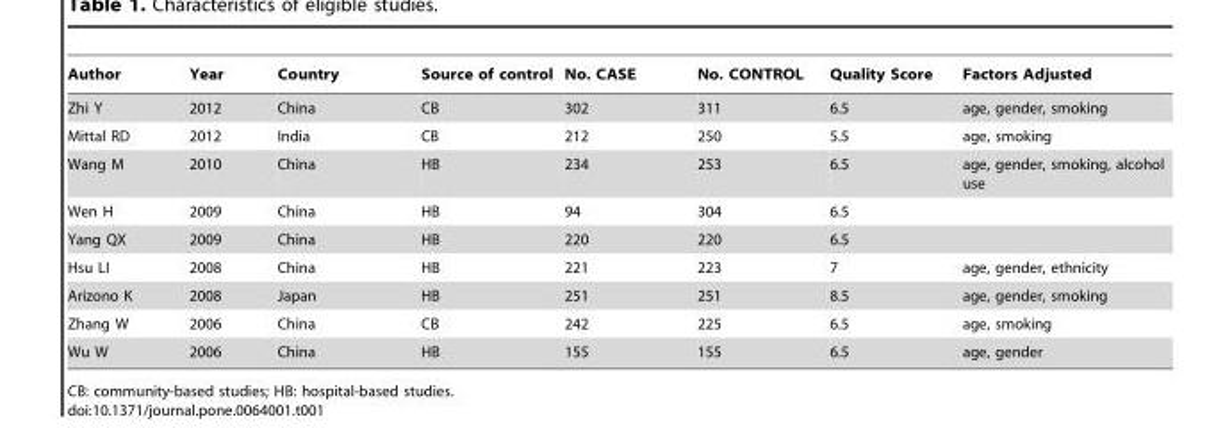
<table><thead><tr><td>Author</td><td>Year</td><td>Country</td><td>Source of control</td><td>No. CASE</td><td>No. CONTROL</td><td>Quality Score</td><td>Factors Adjusted</td></tr></thead><tbody><tr><td>Zhi Y</td><td>2012</td><td>China</td><td>CB</td><td>302</td><td>311</td><td>6.5</td><td>age, gender, smoking</td></tr><tr><td>Mittal RD</td><td>2012</td><td>India</td><td>CB</td><td>212</td><td>250</td><td>5.5</td><td>age, smoking</td></tr><tr><td>Wang M</td><td>2010</td><td>China</td><td>HB</td><td>234</td><td>253</td><td>6.5</td><td>age, gender, smoking, alcohol use</td></tr><tr><td>Wen H</td><td>2009</td><td>China</td><td>HB</td><td>94</td><td>304</td><td>6.5</td><td></td></tr><tr><td>Yang QX</td><td>2009</td><td>China</td><td>HB</td><td>220</td><td>220</td><td>6.5</td><td></td></tr><tr><td>Hsu LI</td><td>2008</td><td>China</td><td>HB</td><td>221</td><td>223</td><td>7</td><td>age, gender, ethnicity</td></tr><tr><td>Arizono K</td><td>2008</td><td>Japan</td><td>HB</td><td>251</td><td>251</td><td>8.5</td><td>age, gender, smoking</td></tr><tr><td>Zhang W</td><td>2006</td><td>China</td><td>CB</td><td>242</td><td>225</td><td>6.5</td><td>age, smoking</td></tr><tr><td>Wu W</td><td>2006</td><td>China</td><td>HB</td><td>155</td><td>155</td><td>6.5</td><td>age, gender</td></tr></tbody></table>